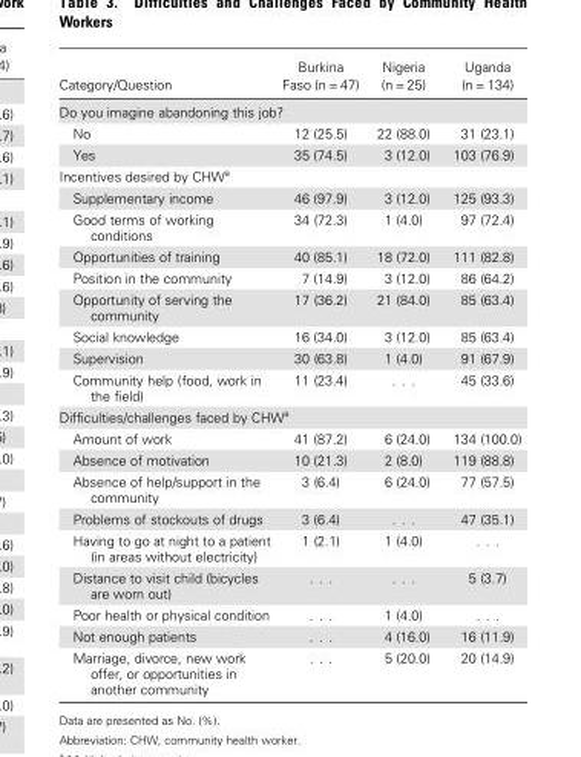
<table><thead><tr><td>Category/Question</td><td>Burkina Faso (n = 47)</td><td>Nigeria (n = 25)</td><td>Uganda (n = 134)</td></tr></thead><tbody><tr><td colspan="4">Do you imagine abandoning this job?</td></tr><tr><td>No</td><td>12 (25.5)</td><td>22 (88.0)</td><td>31 (23.1)</td></tr><tr><td>Yes</td><td>35 (74.5)</td><td>3 (12.0)</td><td>103 (76.9)</td></tr><tr><td colspan="4">Incentives desired by CHW<sup>a</sup></td></tr><tr><td>Supplementary income</td><td>46 (97.9)</td><td>3 (12.0)</td><td>125 (93.3)</td></tr><tr><td>Good terms of working conditions</td><td>34 (72.3)</td><td>1 (4.0)</td><td>97 (72.4)</td></tr><tr><td>Opportunities of training</td><td>40 (85.1)</td><td>18 (72.0)</td><td>111 (82.8)</td></tr><tr><td>Position in the community</td><td>7 (14.9)</td><td>3 (12.0)</td><td>86 (64.2)</td></tr><tr><td>Opportunity of serving the community</td><td>17 (36.2)</td><td>21 (84.0)</td><td>85 (63.4)</td></tr><tr><td>Social knowledge</td><td>16 (34.0)</td><td>3 (12.0)</td><td>85 (63.4)</td></tr><tr><td>Supervision</td><td>30 (63.8)</td><td>1 (4.0)</td><td>91 (67.9)</td></tr><tr><td>Community help (food, work in the field)</td><td>11 (23.4)</td><td>. . .</td><td>45 (33.6)</td></tr><tr><td colspan="4">Difficulties/challenges faced by CHW<sup>a</sup></td></tr><tr><td>Amount of work</td><td>41 (87.2)</td><td>6 (24.0)</td><td>134 (100.0)</td></tr><tr><td>Absence of motivation</td><td>10 (21.3)</td><td>2 (8.0)</td><td>119 (88.8)</td></tr><tr><td>Absence of help/support in the community</td><td>3 (6.4)</td><td>6 (24.0)</td><td>77 (57.5)</td></tr><tr><td>Problems of stockouts of drugs</td><td>3 (6.4)</td><td>. . .</td><td>47 (35.1)</td></tr><tr><td>Having to go at night to a patient (in areas without electricity)</td><td>1 (2.1)</td><td>1 (4.0)</td><td>. . .</td></tr><tr><td>Distance to visit child (bicycles are worn out)</td><td>. . .</td><td>. . .</td><td>5 (3.7)</td></tr><tr><td>Poor health or physical condition</td><td>. . .</td><td>1 (4.0)</td><td>. . .</td></tr><tr><td>Not enough patients</td><td>. . .</td><td>4 (16.0)</td><td>16 (11.9)</td></tr><tr><td>Marriage, divorce, new work offer, or opportunities in another community</td><td>. . .</td><td>5 (20.0)</td><td>20 (14.9)</td></tr></tbody></table>